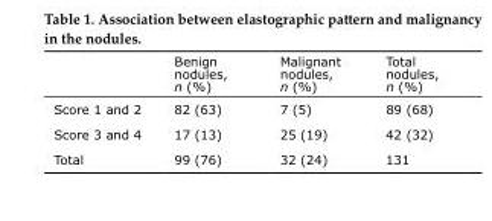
<table><thead><tr><td></td><td>Benign nodules, n (%)</td><td>Malignant nodules, n (%)</td><td>Total nodules, n (%)</td></tr></thead><tbody><tr><td>Score 1 and 2</td><td>82 (63)</td><td>7 (5)</td><td>89 (68)</td></tr><tr><td>Score 3 and 4</td><td>17 (13)</td><td>25 (19)</td><td>42 (32)</td></tr><tr><td>Total</td><td>99 (76)</td><td>32 (24)</td><td>131</td></tr></tbody></table>